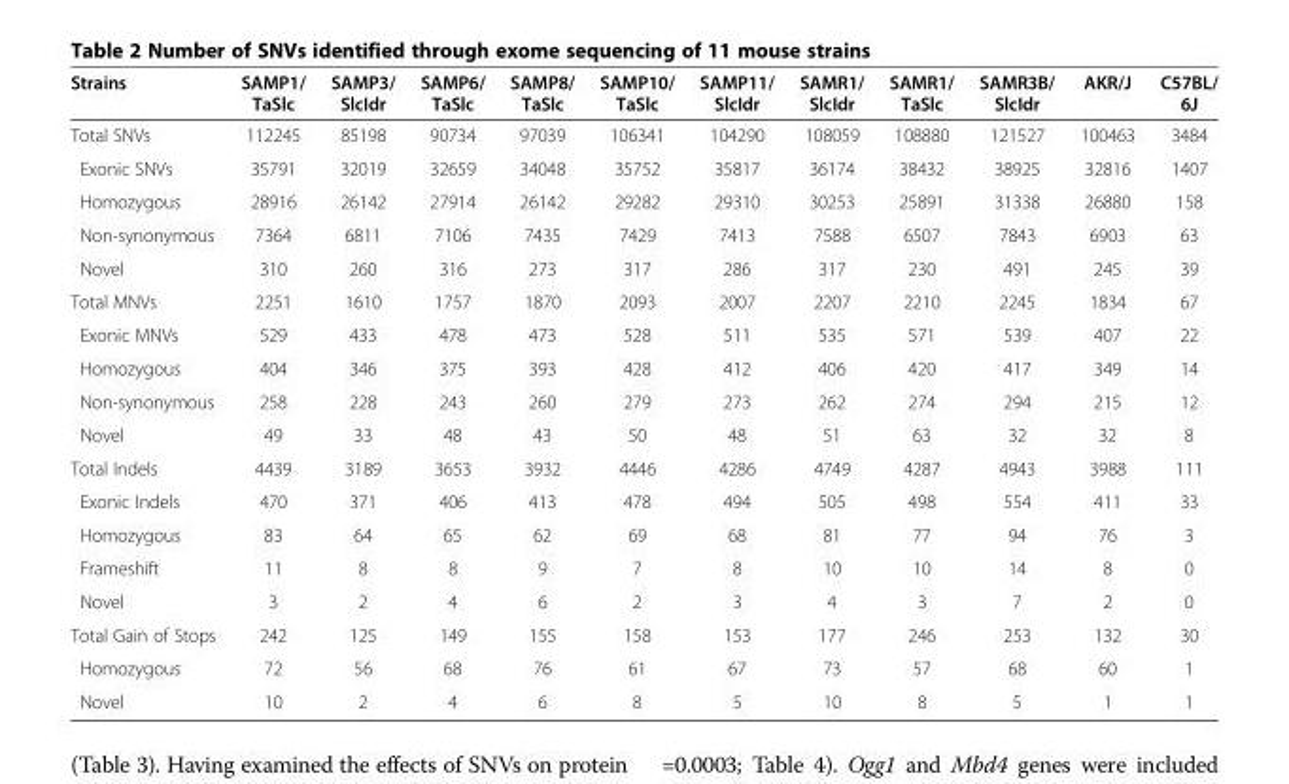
<table><thead><tr><td>Strains</td><td>SAMP1/ TaSlc</td><td>SAMP3/ SlcIdr</td><td>SAMP6/ TaSlc</td><td>SAMP8/ TaSlc</td><td>SAMP10/ TaSlc</td><td>SAMP11/ SlcIdr</td><td>SAMR1/ SlcIdr</td><td>SAMR1/ TaSlc</td><td>SAMR3B/ SlcIdr</td><td>AKR/J</td><td>C57BL/ 6J</td></tr></thead><tbody><tr><td>Total SNVs</td><td>112245</td><td>85198</td><td>90734</td><td>97039</td><td>106341</td><td>104290</td><td>108059</td><td>108880</td><td>121527</td><td>100463</td><td>3484</td></tr><tr><td>Exonic SNVs</td><td>35791</td><td>32019</td><td>32659</td><td>34048</td><td>35752</td><td>35817</td><td>36174</td><td>38432</td><td>38925</td><td>32816</td><td>1407</td></tr><tr><td>Homozygous</td><td>28916</td><td>26142</td><td>27914</td><td>26142</td><td>29282</td><td>29310</td><td>30253</td><td>25891</td><td>31338</td><td>26880</td><td>158</td></tr><tr><td>Non-synonymous</td><td>7364</td><td>6811</td><td>7106</td><td>7435</td><td>7429</td><td>7413</td><td>7588</td><td>6507</td><td>7843</td><td>6903</td><td>63</td></tr><tr><td>Novel</td><td>310</td><td>260</td><td>316</td><td>273</td><td>317</td><td>286</td><td>317</td><td>230</td><td>491</td><td>245</td><td>39</td></tr><tr><td>Total MNVs</td><td>2251</td><td>1610</td><td>1757</td><td>1870</td><td>2093</td><td>2007</td><td>2207</td><td>2210</td><td>2245</td><td>1834</td><td>67</td></tr><tr><td>Exonic MNVs</td><td>529</td><td>433</td><td>478</td><td>473</td><td>528</td><td>511</td><td>535</td><td>571</td><td>539</td><td>407</td><td>22</td></tr><tr><td>Homozygous</td><td>404</td><td>346</td><td>375</td><td>393</td><td>428</td><td>412</td><td>406</td><td>420</td><td>417</td><td>349</td><td>14</td></tr><tr><td>Non-synonymous</td><td>258</td><td>228</td><td>243</td><td>260</td><td>279</td><td>273</td><td>262</td><td>274</td><td>294</td><td>215</td><td>12</td></tr><tr><td>Novel</td><td>49</td><td>33</td><td>48</td><td>43</td><td>50</td><td>48</td><td>51</td><td>63</td><td>32</td><td>32</td><td>8</td></tr><tr><td>Total Indels</td><td>4439</td><td>3189</td><td>3653</td><td>3932</td><td>4446</td><td>4286</td><td>4749</td><td>4287</td><td>4943</td><td>3988</td><td>111</td></tr><tr><td>Exonic Indels</td><td>470</td><td>371</td><td>406</td><td>413</td><td>478</td><td>494</td><td>505</td><td>498</td><td>554</td><td>411</td><td>33</td></tr><tr><td>Homozygous</td><td>83</td><td>64</td><td>65</td><td>62</td><td>69</td><td>68</td><td>81</td><td>77</td><td>94</td><td>76</td><td>3</td></tr><tr><td>Frameshift</td><td>11</td><td>8</td><td>8</td><td>9</td><td>7</td><td>8</td><td>10</td><td>10</td><td>14</td><td>8</td><td>0</td></tr><tr><td>Novel</td><td>3</td><td>2</td><td>4</td><td>6</td><td>2</td><td>3</td><td>4</td><td>3</td><td>7</td><td>2</td><td>0</td></tr><tr><td>Total Gain of Stops</td><td>242</td><td>125</td><td>149</td><td>155</td><td>158</td><td>153</td><td>177</td><td>246</td><td>253</td><td>132</td><td>30</td></tr><tr><td>Homozygous</td><td>72</td><td>56</td><td>68</td><td>76</td><td>61</td><td>67</td><td>73</td><td>57</td><td>68</td><td>60</td><td>1</td></tr><tr><td>Novel</td><td>10</td><td>2</td><td>4</td><td>6</td><td>8</td><td>5</td><td>10</td><td>8</td><td>5</td><td>1</td><td>1</td></tr></tbody></table>